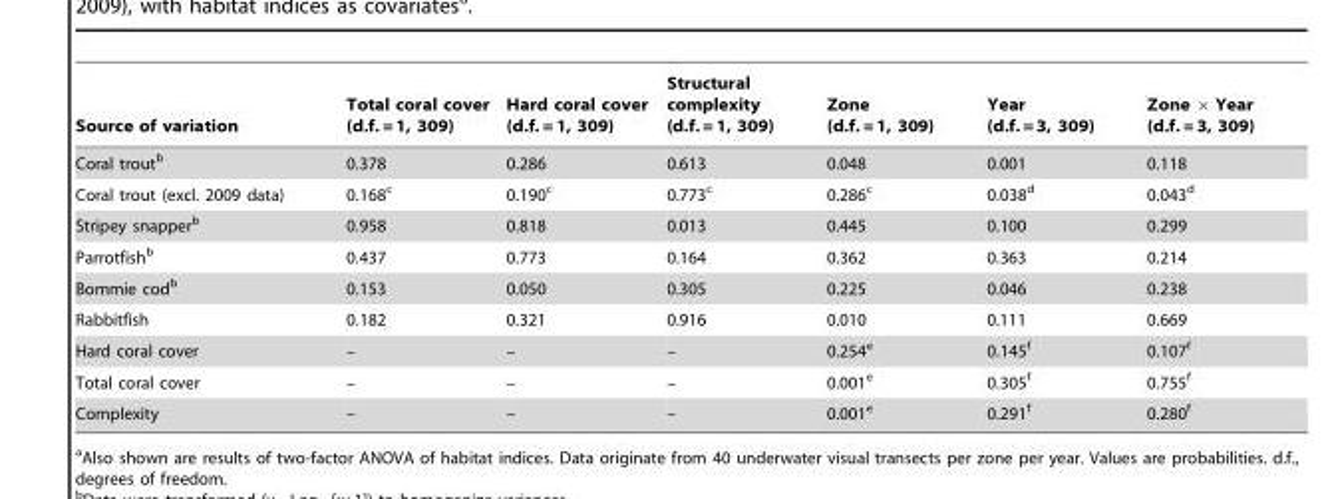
<table><thead><tr><td>Source of variation</td><td>Total coral cover (d.f. = 1, 309)</td><td>Hard coral cover (d.f. = 1, 309)</td><td>Structural complexity (d.f. = 1, 309)</td><td>Zone (d.f. = 1, 309)</td><td>Year (d.f. = 3, 309)</td><td>Zone × Year (d.f. = 3, 309)</td></tr></thead><tbody><tr><td>Coral trout<sup>b</sup></td><td>0.378</td><td>0.286</td><td>0.613</td><td>0.048</td><td>0.001</td><td>0.118</td></tr><tr><td>Coral trout (excl. 2009 data)</td><td>0.168<sup>c</sup></td><td>0.190<sup>c</sup></td><td>0.773<sup>c</sup></td><td>0.286<sup>c</sup></td><td>0.038<sup>d</sup></td><td>0.043<sup>d</sup></td></tr><tr><td>Stripey snapper<sup>b</sup></td><td>0.958</td><td>0.818</td><td>0.013</td><td>0.445</td><td>0.100</td><td>0.299</td></tr><tr><td>Parrotfish<sup>b</sup></td><td>0.437</td><td>0.773</td><td>0.164</td><td>0.362</td><td>0.363</td><td>0.214</td></tr><tr><td>Bommie cod<sup>b</sup></td><td>0.153</td><td>0.050</td><td>0.305</td><td>0.225</td><td>0.046</td><td>0.238</td></tr><tr><td>Rabbitfish</td><td>0.182</td><td>0.321</td><td>0.916</td><td>0.010</td><td>0.111</td><td>0.669</td></tr><tr><td>Hard coral cover</td><td>–</td><td>–</td><td>–</td><td>0.254<sup>e</sup></td><td>0.145<sup>f</sup></td><td>0.107<sup>f</sup></td></tr><tr><td>Total coral cover</td><td>–</td><td>–</td><td>–</td><td>0.001<sup>e</sup></td><td>0.305<sup>f</sup></td><td>0.755<sup>f</sup></td></tr><tr><td>Complexity</td><td>–</td><td>–</td><td>–</td><td>0.001<sup>e</sup></td><td>0.291<sup>f</sup></td><td>0.280<sup>f</sup></td></tr></tbody></table>